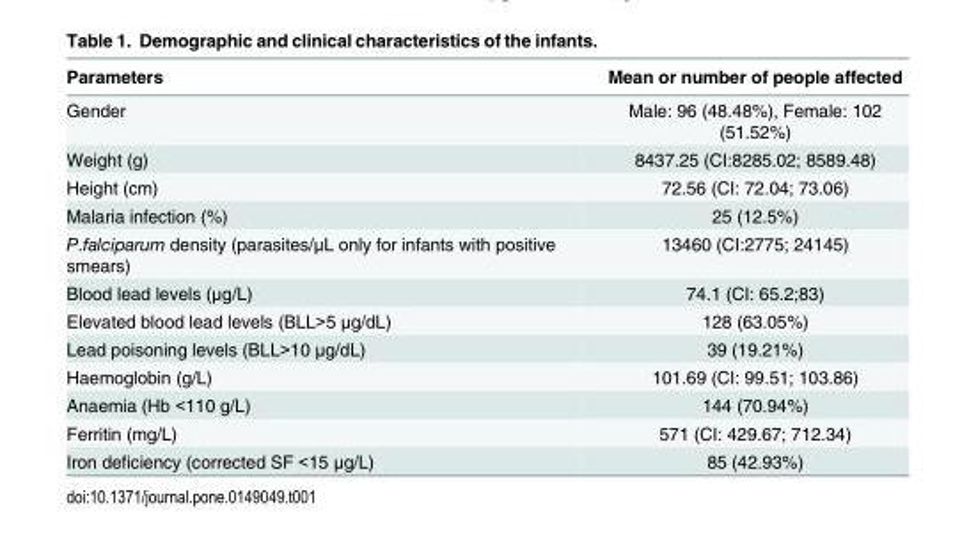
<table><thead><tr><td>Parameters</td><td>Mean or number of people affected</td></tr></thead><tbody><tr><td>Gender</td><td>Male: 96 (48.48%), Female: 102 (51.52%)</td></tr><tr><td>Weight (g)</td><td>8437.25 (CI:8285.02; 8589.48)</td></tr><tr><td>Height (cm)</td><td>72.56 (CI: 72.04; 73.06)</td></tr><tr><td>Malaria infection (%)</td><td>25 (12.5%)</td></tr><tr><td>P.falciparum density (parasites/μL only for infants with positive smears)</td><td>13460 (CI:2775; 24145)</td></tr><tr><td>Blood lead levels (μg/L)</td><td>74.1 (CI: 65.2;83)</td></tr><tr><td>Elevated blood lead levels (BLL&gt;5 μg/dL)</td><td>128 (63.05%)</td></tr><tr><td>Lead poisoning levels (BLL&gt;10 μg/dL)</td><td>39 (19.21%)</td></tr><tr><td>Haemoglobin (g/L)</td><td>101.69 (CI: 99.51; 103.86)</td></tr><tr><td>Anaemia (Hb &lt;110 g/L)</td><td>144 (70.94%)</td></tr><tr><td>Ferritin (mg/L)</td><td>571 (CI: 429.67; 712.34)</td></tr><tr><td>Iron deficiency (corrected SF &lt;15 μg/L)</td><td>85 (42.93%)</td></tr></tbody></table>